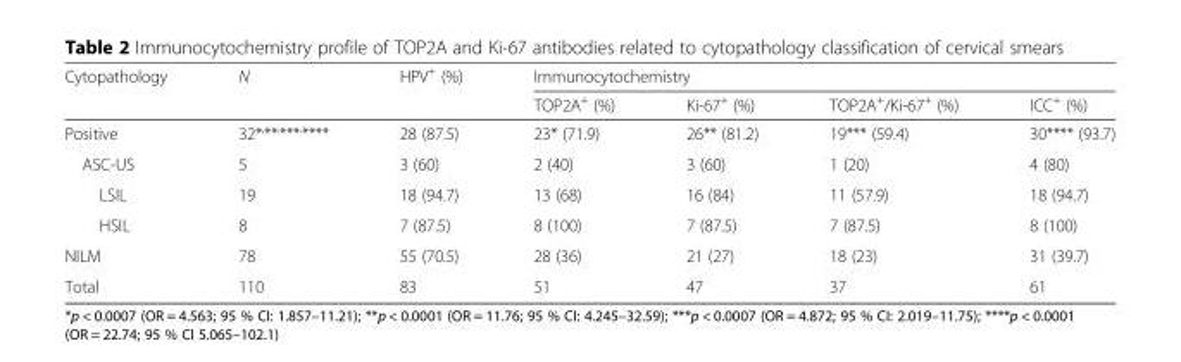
<table><thead><tr><td rowspan="2">Cytopathology</td><td rowspan="2">N</td><td rowspan="2">HPV<sup>+</sup> (%)</td><td colspan="4">Immunocytochemistry</td></tr><tr><td>TOP2A<sup>+</sup> (%)</td><td>Ki-67<sup>+</sup> (%)</td><td>TOP2A<sup>+</sup>/Ki-67<sup>+</sup> (%)</td><td>ICC<sup>+</sup> (%)</td></tr></thead><tbody><tr><td>Positive</td><td>32*<sup>,</sup>**<sup>,</sup>***<sup>,</sup>****</td><td>28 (87.5)</td><td>23* (71.9)</td><td>26** (81.2)</td><td>19*** (59.4)</td><td>30**** (93.7)</td></tr><tr><td>ASC-US</td><td>5</td><td>3 (60)</td><td>2 (40)</td><td>3 (60)</td><td>1 (20)</td><td>4 (80)</td></tr><tr><td>LSIL</td><td>19</td><td>18 (94.7)</td><td>13 (68)</td><td>16 (84)</td><td>11 (57.9)</td><td>18 (94.7)</td></tr><tr><td>HSIL</td><td>8</td><td>7 (87.5)</td><td>8 (100)</td><td>7 (87.5)</td><td>7 (87.5)</td><td>8 (100)</td></tr><tr><td>NILM</td><td>78</td><td>55 (70.5)</td><td>28 (36)</td><td>21 (27)</td><td>18 (23)</td><td>31 (39.7)</td></tr><tr><td>Total</td><td>110</td><td>83</td><td>51</td><td>47</td><td>37</td><td>61</td></tr></tbody></table>